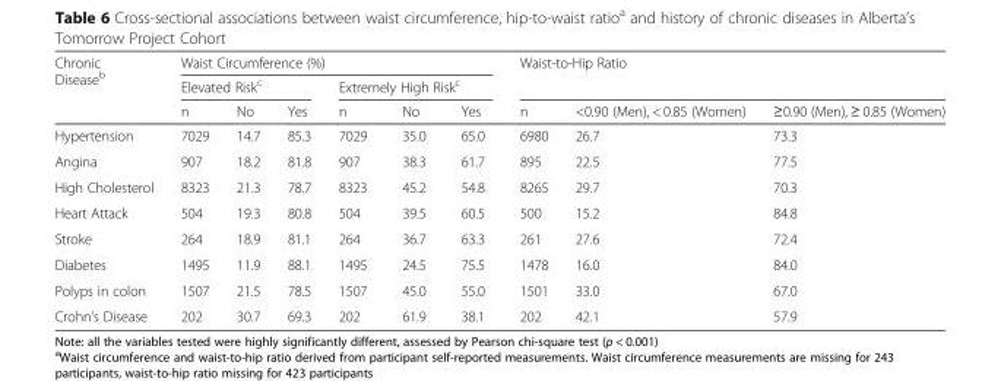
<table><thead><tr><td rowspan="3">Chronic Disease<sup>b</sup></td><td colspan="6">Waist Circumference (%)</td><td rowspan="2" colspan="3">Waist-to-Hip Ratio</td></tr><tr><td colspan="3">Elevated Risk<sup>c</sup></td><td colspan="3">Extremely High Risk<sup>c</sup></td></tr><tr><td>n</td><td>No</td><td>Yes</td><td>n</td><td>No</td><td>Yes</td><td>n</td><td>&lt;0.90 (Men), &lt; 0.85 (Women)</td><td>≥0.90 (Men), ≥ 0.85 (Women)</td></tr></thead><tbody><tr><td>Hypertension</td><td>7029</td><td>14.7</td><td>85.3</td><td>7029</td><td>35.0</td><td>65.0</td><td>6980</td><td>26.7</td><td>73.3</td></tr><tr><td>Angina</td><td>907</td><td>18.2</td><td>81.8</td><td>907</td><td>38.3</td><td>61.7</td><td>895</td><td>22.5</td><td>77.5</td></tr><tr><td>High Cholesterol</td><td>8323</td><td>21.3</td><td>78.7</td><td>8323</td><td>45.2</td><td>54.8</td><td>8265</td><td>29.7</td><td>70.3</td></tr><tr><td>Heart Attack</td><td>504</td><td>19.3</td><td>80.8</td><td>504</td><td>39.5</td><td>60.5</td><td>500</td><td>15.2</td><td>84.8</td></tr><tr><td>Stroke</td><td>264</td><td>18.9</td><td>81.1</td><td>264</td><td>36.7</td><td>63.3</td><td>261</td><td>27.6</td><td>72.4</td></tr><tr><td>Diabetes</td><td>1495</td><td>11.9</td><td>88.1</td><td>1495</td><td>24.5</td><td>75.5</td><td>1478</td><td>16.0</td><td>84.0</td></tr><tr><td>Polyps in colon</td><td>1507</td><td>21.5</td><td>78.5</td><td>1507</td><td>45.0</td><td>55.0</td><td>1501</td><td>33.0</td><td>67.0</td></tr><tr><td>Crohn’s Disease</td><td>202</td><td>30.7</td><td>69.3</td><td>202</td><td>61.9</td><td>38.1</td><td>202</td><td>42.1</td><td>57.9</td></tr></tbody></table>